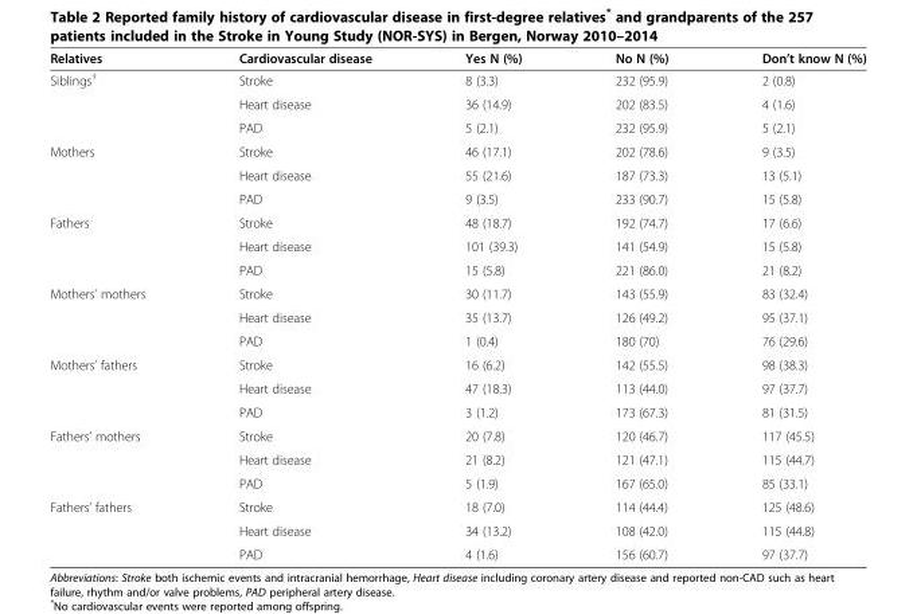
<table><thead><tr><td>Relatives</td><td>Cardiovascular disease</td><td>Yes N (%)</td><td>No N (%)</td><td>Don’t know N (%)</td></tr></thead><tbody><tr><td rowspan="3">Siblings<sup>†</sup></td><td>Stroke</td><td>8 (3.3)</td><td>232 (95.9)</td><td>2 (0.8)</td></tr><tr><td>Heart disease</td><td>36 (14.9)</td><td>202 (83.5)</td><td>4 (1.6)</td></tr><tr><td>PAD</td><td>5 (2.1)</td><td>232 (95.9)</td><td>5 (2.1)</td></tr><tr><td rowspan="3">Mothers</td><td>Stroke</td><td>46 (17.1)</td><td>202 (78.6)</td><td>9 (3.5)</td></tr><tr><td>Heart disease</td><td>55 (21.6)</td><td>187 (73.3)</td><td>13 (5.1)</td></tr><tr><td>PAD</td><td>9 (3.5)</td><td>233 (90.7)</td><td>15 (5.8)</td></tr><tr><td rowspan="3">Fathers</td><td>Stroke</td><td>48 (18.7)</td><td>192 (74.7)</td><td>17 (6.6)</td></tr><tr><td>Heart disease</td><td>101 (39.3)</td><td>141 (54.9)</td><td>15 (5.8)</td></tr><tr><td>PAD</td><td>15 (5.8)</td><td>221 (86.0)</td><td>21 (8.2)</td></tr><tr><td rowspan="3">Mothers’ mothers</td><td>Stroke</td><td>30 (11.7)</td><td>143 (55.9)</td><td>83 (32.4)</td></tr><tr><td>Heart disease</td><td>35 (13.7)</td><td>126 (49.2)</td><td>95 (37.1)</td></tr><tr><td>PAD</td><td>1 (0.4)</td><td>180 (70)</td><td>76 (29.6)</td></tr><tr><td rowspan="3">Mothers’ fathers</td><td>Stroke</td><td>16 (6.2)</td><td>142 (55.5)</td><td>98 (38.3)</td></tr><tr><td>Heart disease</td><td>47 (18.3)</td><td>113 (44.0)</td><td>97 (37.7)</td></tr><tr><td>PAD</td><td>3 (1.2)</td><td>173 (67.3)</td><td>81 (31.5)</td></tr><tr><td rowspan="3">Fathers’ mothers</td><td>Stroke</td><td>20 (7.8)</td><td>120 (46.7)</td><td>117 (45.5)</td></tr><tr><td>Heart disease</td><td>21 (8.2)</td><td>121 (47.1)</td><td>115 (44.7)</td></tr><tr><td>PAD</td><td>5 (1.9)</td><td>167 (65.0)</td><td>85 (33.1)</td></tr><tr><td rowspan="3">Fathers’ fathers</td><td>Stroke</td><td>18 (7.0)</td><td>114 (44.4)</td><td>125 (48.6)</td></tr><tr><td>Heart disease</td><td>34 (13.2)</td><td>108 (42.0)</td><td>115 (44.8)</td></tr><tr><td>PAD</td><td>4 (1.6)</td><td>156 (60.7)</td><td>97 (37.7)</td></tr></tbody></table>